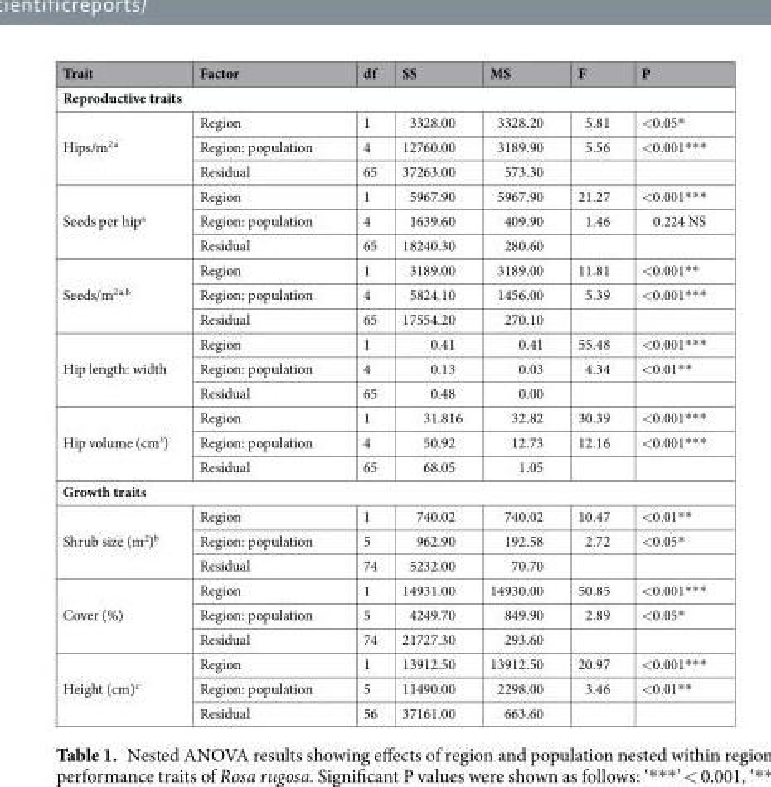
<table><thead><tr><td>Trait</td><td>Factor</td><td>df</td><td>SS</td><td>MS</td><td>F</td><td>P</td></tr></thead><tbody><tr><td colspan="7">Reproductive traits</td></tr><tr><td rowspan="3">Hips/m<sup>2 a</sup></td><td>Region</td><td>1</td><td>3328.00</td><td>3328.20</td><td>5.81</td><td>&lt;0.05*</td></tr><tr><td>Region: population</td><td>4</td><td>12760.00</td><td>3189.90</td><td>5.56</td><td>&lt;0.001***</td></tr><tr><td>Residual</td><td>65</td><td>37263.00</td><td>573.30</td><td></td><td></td></tr><tr><td rowspan="3">Seeds per hip<sup>a</sup></td><td>Region</td><td>1</td><td>5967.90</td><td>5967.90</td><td>21.27</td><td>&lt;0.001***</td></tr><tr><td>Region: population</td><td>4</td><td>1639.60</td><td>409.90</td><td>1.46</td><td>0.224 NS</td></tr><tr><td>Residual</td><td>65</td><td>18240.30</td><td>280.60</td><td></td><td></td></tr><tr><td rowspan="3">Seeds/m<sup>2 a,b</sup></td><td>Region</td><td>1</td><td>3189.00</td><td>3189.00</td><td>11.81</td><td>&lt;0.001**</td></tr><tr><td>Region: population</td><td>4</td><td>5824.10</td><td>1456.00</td><td>5.39</td><td>&lt;0.001***</td></tr><tr><td>Residual</td><td>65</td><td>17554.20</td><td>270.10</td><td></td><td></td></tr><tr><td rowspan="3">Hip length: width</td><td>Region</td><td>1</td><td>0.41</td><td>0.41</td><td>55.48</td><td>&lt;0.001***</td></tr><tr><td>Region: population</td><td>4</td><td>0.13</td><td>0.03</td><td>4.34</td><td>&lt;0.01**</td></tr><tr><td>Residual</td><td>65</td><td>0.48</td><td>0.00</td><td></td><td></td></tr><tr><td rowspan="3">Hip volume (cm<sup>3</sup>)</td><td>Region</td><td>1</td><td>31.816</td><td>32.82</td><td>30.39</td><td>&lt;0.001***</td></tr><tr><td>Region: population</td><td>4</td><td>50.92</td><td>12.73</td><td>12.16</td><td>&lt;0.001***</td></tr><tr><td>Residual</td><td>65</td><td>68.05</td><td>1.05</td><td></td><td></td></tr><tr><td colspan="7">Growth traits</td></tr><tr><td rowspan="3">Shrub size (m<sup>2</sup>)<sup>b</sup></td><td>Region</td><td>1</td><td>740.02</td><td>740.02</td><td>10.47</td><td>&lt;0.01**</td></tr><tr><td>Region: population</td><td>5</td><td>962.90</td><td>192.58</td><td>2.72</td><td>&lt;0.05*</td></tr><tr><td>Residual</td><td>74</td><td>5232.00</td><td>70.70</td><td></td><td></td></tr><tr><td rowspan="3">Cover (%)</td><td>Region</td><td>1</td><td>14931.00</td><td>14930.00</td><td>50.85</td><td>&lt;0.001***</td></tr><tr><td>Region: population</td><td>5</td><td>4249.70</td><td>849.90</td><td>2.89</td><td>&lt;0.05*</td></tr><tr><td>Residual</td><td>74</td><td>21727.30</td><td>293.60</td><td></td><td></td></tr><tr><td rowspan="3">Height (cm)<sup>c</sup></td><td>Region</td><td>1</td><td>13912.50</td><td>13912.50</td><td>20.97</td><td>&lt;0.001***</td></tr><tr><td>Region: population</td><td>5</td><td>11490.00</td><td>2298.00</td><td>3.46</td><td>&lt;0.01**</td></tr><tr><td>Residual</td><td>56</td><td>37161.00</td><td>663.60</td><td></td><td></td></tr></tbody></table>